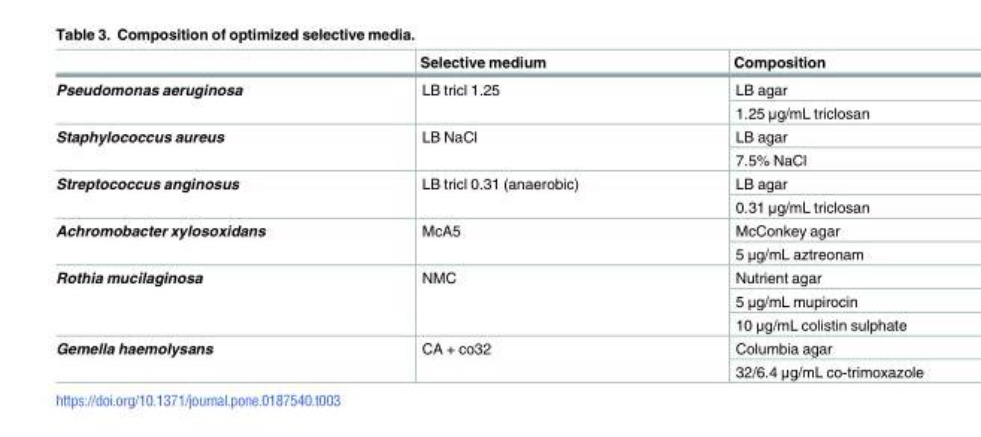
<table><thead><tr><td></td><td>Selective medium</td><td>Composition</td></tr></thead><tbody><tr><td rowspan="2">Pseudomonas aeruginosa</td><td rowspan="2">LB tricl 1.25</td><td>LB agar</td></tr><tr><td>1.25 μg/mL triclosan</td></tr><tr><td rowspan="2">Staphylococcus aureus</td><td rowspan="2">LB NaCl</td><td>LB agar</td></tr><tr><td>7.5% NaCl</td></tr><tr><td rowspan="2">Streptococcus anginosus</td><td rowspan="2">LB tricl 0.31 (anaerobic)</td><td>LB agar</td></tr><tr><td>0.31 μg/mL triclosan</td></tr><tr><td rowspan="2">Achromobacter xylosoxidans</td><td rowspan="2">McA5</td><td>McConkey agar</td></tr><tr><td>5 μg/mL aztreonam</td></tr><tr><td rowspan="3">Rothia mucilaginosa</td><td rowspan="3">NMC</td><td>Nutrient agar</td></tr><tr><td>5 μg/mL mupirocin</td></tr><tr><td>10 μg/mL colistin sulphate</td></tr><tr><td rowspan="2">Gemella haemolysans</td><td rowspan="2">CA + co32</td><td>Columbia agar</td></tr><tr><td>32/6.4 μg/mL co-trimoxazole</td></tr></tbody></table>